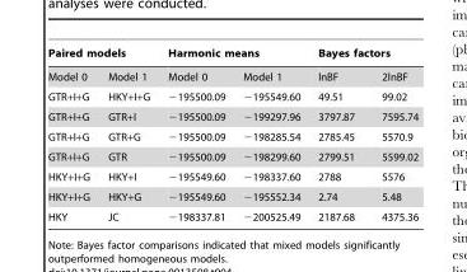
<table><thead><tr><td colspan="2">Paired models</td><td colspan="2">Harmonic means</td><td colspan="2">Bayes factors</td></tr><tr><td>Model 0</td><td>Model 1</td><td>Model 0</td><td>Model 1</td><td>lnBF</td><td>2lnBF</td></tr></thead><tbody><tr><td>GTR+I+G</td><td>HKY+I+G</td><td>−195500.09</td><td>−195549.60</td><td>49.51</td><td>99.02</td></tr><tr><td>GTR+I+G</td><td>GTR+I</td><td>−195500.09</td><td>−199297.96</td><td>3797.87</td><td>7595.74</td></tr><tr><td>GTR+I+G</td><td>GTR+G</td><td>−195500.09</td><td>−198285.54</td><td>2785.45</td><td>5570.9</td></tr><tr><td>GTR+I+G</td><td>GTR</td><td>−195500.09</td><td>−198299.60</td><td>2799.51</td><td>5599.02</td></tr><tr><td>HKY+I+G</td><td>HKY+I</td><td>−195549.60</td><td>−198337.60</td><td>2788</td><td>5576</td></tr><tr><td>HKY+I+G</td><td>HKY+G</td><td>−195549.60</td><td>−195552.34</td><td>2.74</td><td>5.48</td></tr><tr><td>HKY</td><td>JC</td><td>−198337.81</td><td>−200525.49</td><td>2187.68</td><td>4375.36</td></tr></tbody></table>